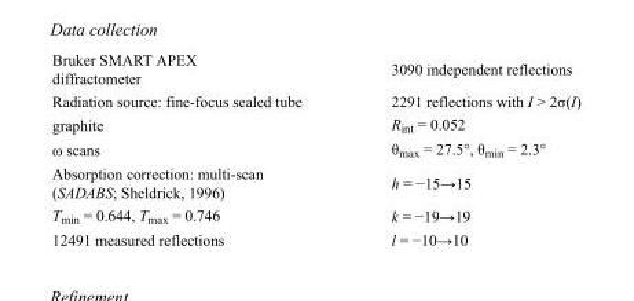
<table><tbody><tr><td>Bruker SMART APEX diffractometer</td><td>3090 independent reflections</td></tr><tr><td>Radiation source: fine-focus sealed tube</td><td>2291 reflections with I &gt; 2σ(I)</td></tr><tr><td>graphite</td><td>R<sub>int</sub> = 0.052</td></tr><tr><td>ω scans</td><td>θ<sub>max</sub> = 27.5°, θ<sub>min</sub> = 2.3°</td></tr><tr><td>Absorption correction: multi-scan (SADABS; Sheldrick, 1996)</td><td>h = −15→15</td></tr><tr><td>T<sub>min</sub> = 0.644, T<sub>max</sub> = 0.746</td><td>k = −19→19</td></tr><tr><td>12491 measured reflections</td><td>l = −10→10</td></tr></tbody></table>